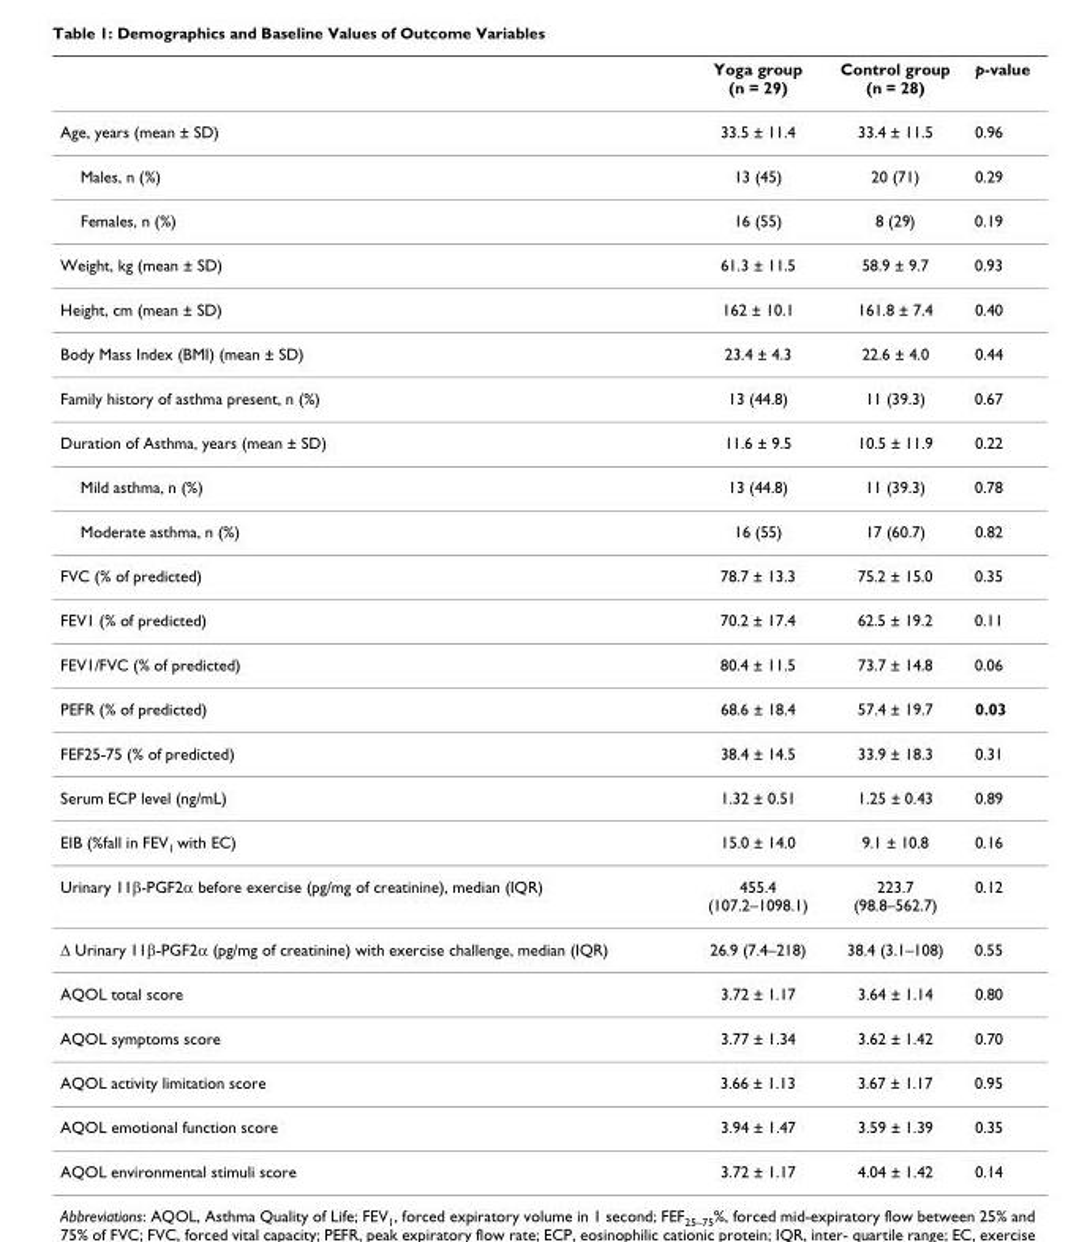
<table><thead><tr><td></td><td>Yoga group (n = 29)</td><td>Control group (n = 28)</td><td>p-value</td></tr></thead><tbody><tr><td>Age, years (mean ± SD)</td><td>33.5 ± 11.4</td><td>33.4 ± 11.5</td><td>0.96</td></tr><tr><td>Males, n (%)</td><td>13 (45)</td><td>20 (71)</td><td>0.29</td></tr><tr><td>Females, n (%)</td><td>16 (55)</td><td>8 (29)</td><td>0.19</td></tr><tr><td>Weight, kg (mean ± SD)</td><td>61.3 ± 11.5</td><td>58.9 ± 9.7</td><td>0.93</td></tr><tr><td>Height, cm (mean ± SD)</td><td>162 ± 10.1</td><td>161.8 ± 7.4</td><td>0.40</td></tr><tr><td>Body Mass Index (BMI) (mean ± SD)</td><td>23.4 ± 4.3</td><td>22.6 ± 4.0</td><td>0.44</td></tr><tr><td>Family history of asthma present, n (%)</td><td>13 (44.8)</td><td>11 (39.3)</td><td>0.67</td></tr><tr><td>Duration of Asthma, years (mean ± SD)</td><td>11.6 ± 9.5</td><td>10.5 ± 11.9</td><td>0.22</td></tr><tr><td>Mild asthma, n (%)</td><td>13 (44.8)</td><td>11 (39.3)</td><td>0.78</td></tr><tr><td>Moderate asthma, n (%)</td><td>16 (55)</td><td>17 (60.7)</td><td>0.82</td></tr><tr><td>FVC (% of predicted)</td><td>78.7 ± 13.3</td><td>75.2 ± 15.0</td><td>0.35</td></tr><tr><td>FEV1 (% of predicted)</td><td>70.2 ± 17.4</td><td>62.5 ± 19.2</td><td>0.11</td></tr><tr><td>FEV1/FVC (% of predicted)</td><td>80.4 ± 11.5</td><td>73.7 ± 14.8</td><td>0.06</td></tr><tr><td>PEFR (% of predicted)</td><td>68.6 ± 18.4</td><td>57.4 ± 19.7</td><td>0.03</td></tr><tr><td>FEF25-75 (% of predicted)</td><td>38.4 ± 14.5</td><td>33.9 ± 18.3</td><td>0.31</td></tr><tr><td>Serum ECP level (ng/mL)</td><td>1.32 ± 0.51</td><td>1.25 ± 0.43</td><td>0.89</td></tr><tr><td>EIB (%fall in FEV<sub>1</sub> with EC)</td><td>15.0 ± 14.0</td><td>9.1 ± 10.8</td><td>0.16</td></tr><tr><td>Urinary 11β-PGF2α before exercise (pg/mg of creatinine), median (IQR)</td><td>455.4 (107.2–1098.1)</td><td>223.7 (98.8–562.7)</td><td>0.12</td></tr><tr><td>Δ Urinary 11β-PGF2α (pg/mg of creatinine) with exercise challenge, median (IQR)</td><td>26.9 (7.4–218)</td><td>38.4 (3.1–108)</td><td>0.55</td></tr><tr><td>AQOL total score</td><td>3.72 ± 1.17</td><td>3.64 ± 1.14</td><td>0.80</td></tr><tr><td>AQOL symptoms score</td><td>3.77 ± 1.34</td><td>3.62 ± 1.42</td><td>0.70</td></tr><tr><td>AQOL activity limitation score</td><td>3.66 ± 1.13</td><td>3.67 ± 1.17</td><td>0.95</td></tr><tr><td>AQOL emotional function score</td><td>3.94 ± 1.47</td><td>3.59 ± 1.39</td><td>0.35</td></tr><tr><td>AQOL environmental stimuli score</td><td>3.72 ± 1.17</td><td>4.04 ± 1.42</td><td>0.14</td></tr></tbody></table>